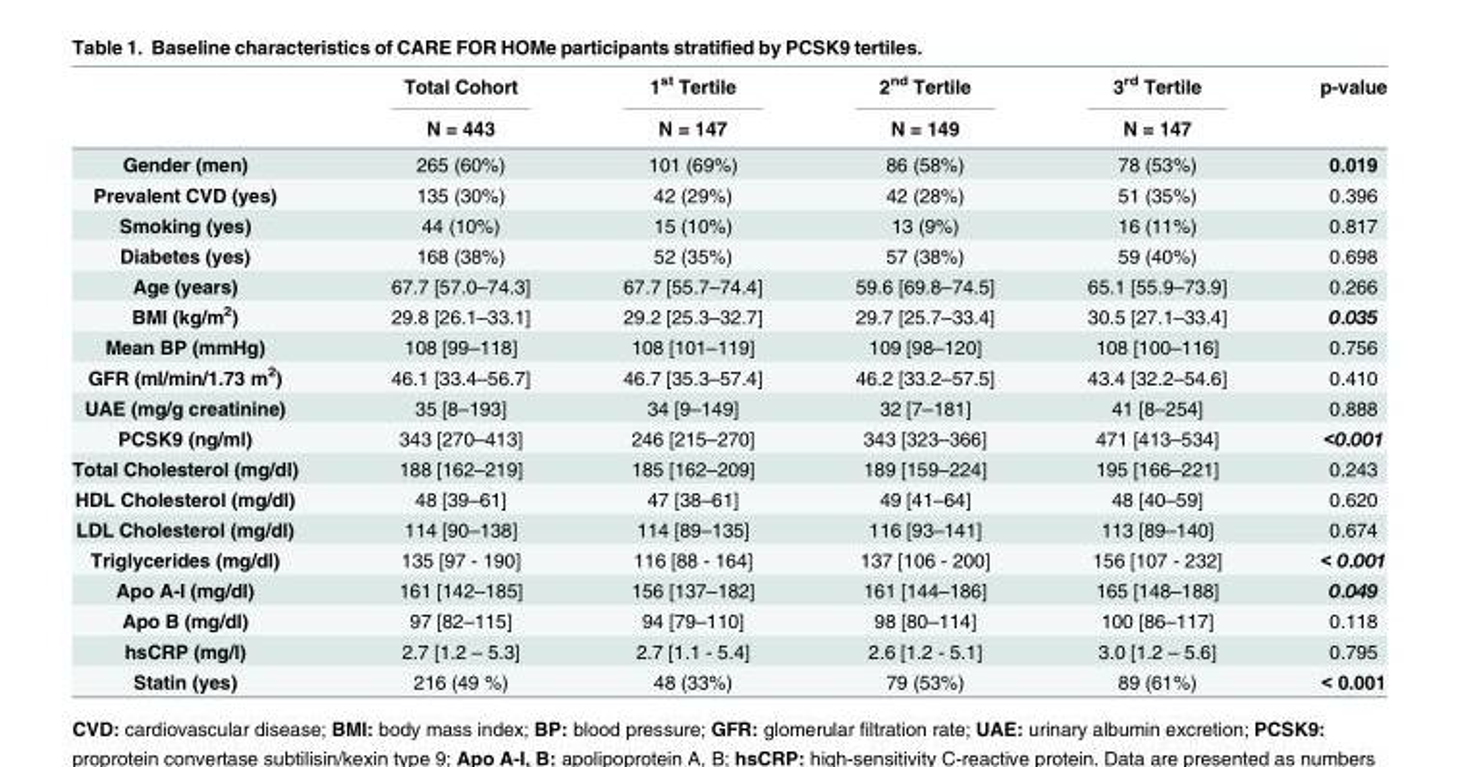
<table><thead><tr><td rowspan="2"></td><td rowspan="2">Total Cohort N = 443</td><td rowspan="2">1<sup>st</sup> Tertile N = 147</td><td rowspan="2">2<sup>nd</sup> Tertile N = 149</td><td rowspan="2">3<sup>rd</sup> Tertile N = 147</td><td rowspan="2">p-value</td></tr><tr></tr></thead><tbody><tr><td>Gender (men)</td><td>265 (60%)</td><td>101 (69%)</td><td>86 (58%)</td><td>78 (53%)</td><td>0.019</td></tr><tr><td>Prevalent CVD (yes)</td><td>135 (30%)</td><td>42 (29%)</td><td>42 (28%)</td><td>51 (35%)</td><td>0.396</td></tr><tr><td>Smoking (yes)</td><td>44 (10%)</td><td>15 (10%)</td><td>13 (9%)</td><td>16 (11%)</td><td>0.817</td></tr><tr><td>Diabetes (yes)</td><td>168 (38%)</td><td>52 (35%)</td><td>57 (38%)</td><td>59 (40%)</td><td>0.698</td></tr><tr><td>Age (years)</td><td>67.7 [57.0–74.3]</td><td>67.7 [55.7–74.4]</td><td>59.6 [69.8–74.5]</td><td>65.1 [55.9–73.9]</td><td>0.266</td></tr><tr><td>BMI (kg/m<sup>2</sup>)</td><td>29.8 [26.1–33.1]</td><td>29.2 [25.3–32.7]</td><td>29.7 [25.7–33.4]</td><td>30.5 [27.1–33.4]</td><td>0.035</td></tr><tr><td>Mean BP (mmHg)</td><td>108 [99–118]</td><td>108 [101–119]</td><td>109 [98–120]</td><td>108 [100–116]</td><td>0.756</td></tr><tr><td>GFR (ml/min/1.73 m<sup>2</sup>)</td><td>46.1 [33.4–56.7]</td><td>46.7 [35.3–57.4]</td><td>46.2 [33.2–57.5]</td><td>43.4 [32.2–54.6]</td><td>0.410</td></tr><tr><td>UAE (mg/g creatinine)</td><td>35 [8–193]</td><td>34 [9–149]</td><td>32 [7–181]</td><td>41 [8–254]</td><td>0.888</td></tr><tr><td>PCSK9 (ng/ml)</td><td>343 [270–413]</td><td>246 [215–270]</td><td>343 [323–366]</td><td>471 [413–534]</td><td>&lt;0.001</td></tr><tr><td>Total Cholesterol (mg/dl)</td><td>188 [162–219]</td><td>185 [162–209]</td><td>189 [159–224]</td><td>195 [166–221]</td><td>0.243</td></tr><tr><td>HDL Cholesterol (mg/dl)</td><td>48 [39–61]</td><td>47 [38–61]</td><td>49 [41–64]</td><td>48 [40–59]</td><td>0.620</td></tr><tr><td>LDL Cholesterol (mg/dl)</td><td>114 [90–138]</td><td>114 [89–135]</td><td>116 [93–141]</td><td>113 [89–140]</td><td>0.674</td></tr><tr><td>Triglycerides (mg/dl)</td><td>135 [97 - 190]</td><td>116 [88 - 164]</td><td>137 [106 - 200]</td><td>156 [107 - 232]</td><td>&lt; 0.001</td></tr><tr><td>Apo A-I (mg/dl)</td><td>161 [142–185]</td><td>156 [137–182]</td><td>161 [144–186]</td><td>165 [148–188]</td><td>0.049</td></tr><tr><td>Apo B (mg/dl)</td><td>97 [82–115]</td><td>94 [79–110]</td><td>98 [80–114]</td><td>100 [86–117]</td><td>0.118</td></tr><tr><td>hsCRP (mg/l)</td><td>2.7 [1.2 – 5.3]</td><td>2.7 [1.1 - 5.4]</td><td>2.6 [1.2 - 5.1]</td><td>3.0 [1.2 – 5.6]</td><td>0.795</td></tr><tr><td>Statin (yes)</td><td>216 (49 %)</td><td>48 (33%)</td><td>79 (53%)</td><td>89 (61%)</td><td>&lt; 0.001</td></tr></tbody></table>